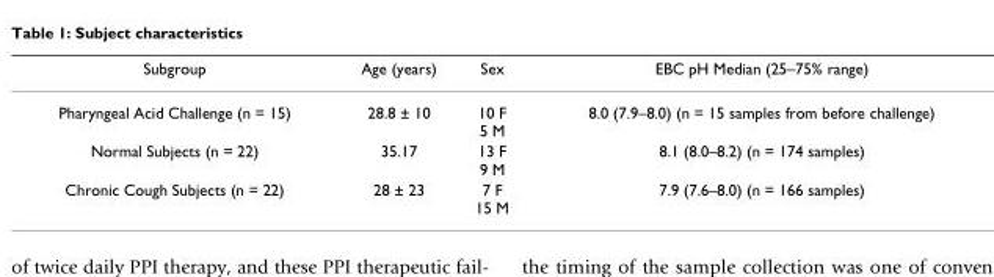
<table><thead><tr><td>Subgroup</td><td>Age (years)</td><td>Sex</td><td>EBC pH Median (25–75% range)</td></tr></thead><tbody><tr><td>Pharyngeal Acid Challenge (n = 15)</td><td>28.8 ± 10</td><td>10 F 5 M</td><td>8.0 (7.9–8.0) (n = 15 samples from before challenge)</td></tr><tr><td>Normal Subjects (n = 22)</td><td>35.17</td><td>13 F 9 M</td><td>8.1 (8.0–8.2) (n = 174 samples)</td></tr><tr><td>Chronic Cough Subjects (n = 22)</td><td>28 ± 23</td><td>7 F 15 M</td><td>7.9 (7.6–8.0) (n = 166 samples)</td></tr></tbody></table>